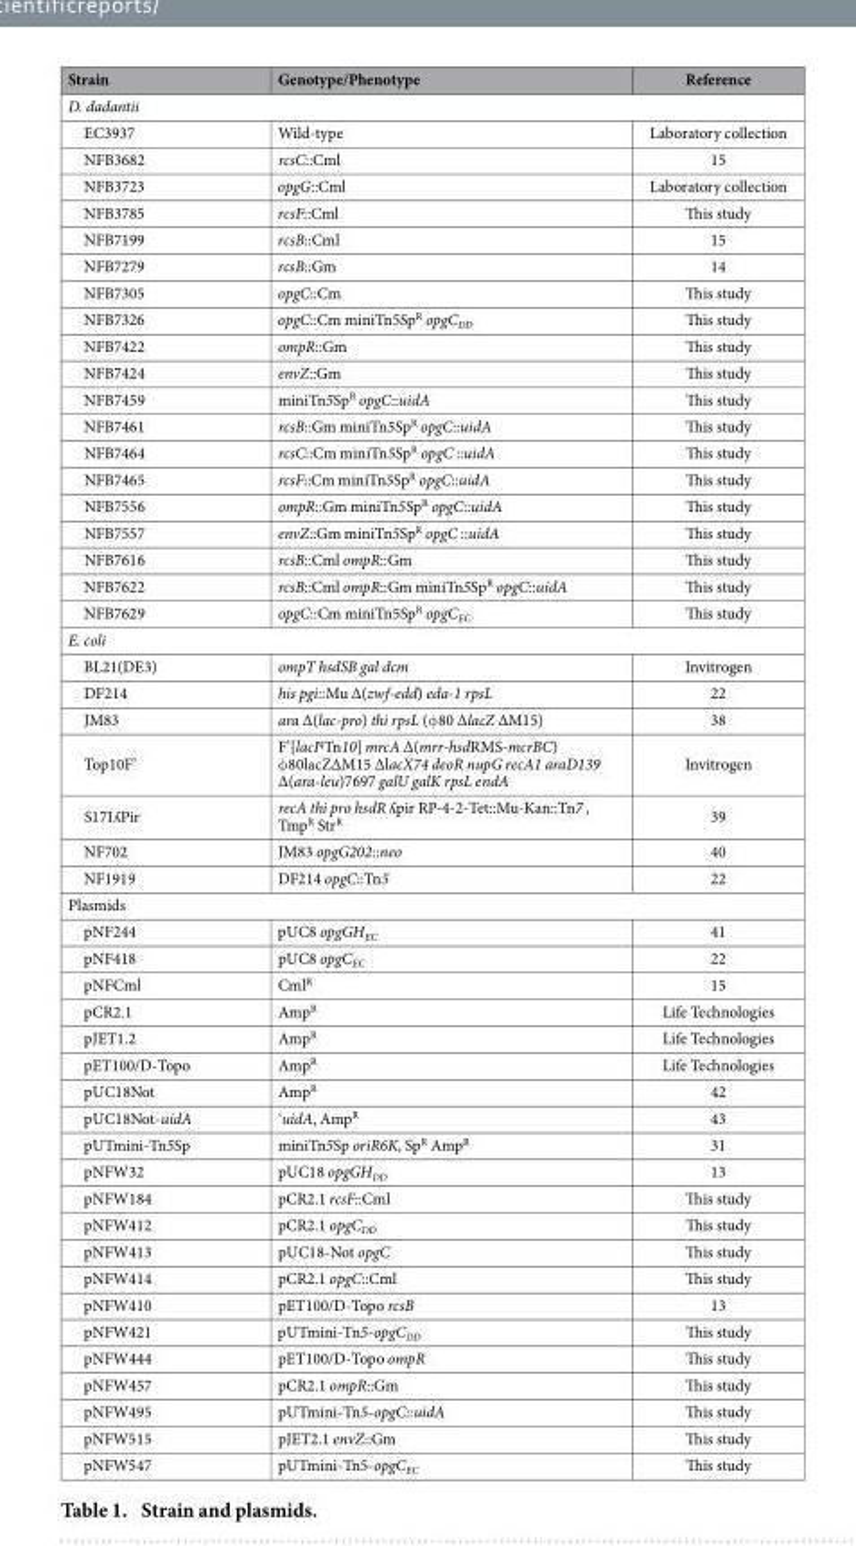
<table><thead><tr><td>Strain</td><td>Genotype/Phenotype</td><td>Reference</td></tr></thead><tbody><tr><td colspan="3">D. dadantii</td></tr><tr><td>EC3937</td><td>Wild-type</td><td>Laboratory collection</td></tr><tr><td>NFB3682</td><td>rcsC::Cml</td><td>15</td></tr><tr><td>NFB3723</td><td>opgG::Cml</td><td>Laboratory collection</td></tr><tr><td>NFB3785</td><td>rcsF::Cml</td><td>This study</td></tr><tr><td>NFB7199</td><td>rcsB::Cml</td><td>15</td></tr><tr><td>NFB7279</td><td>rcsB::Gm</td><td>14</td></tr><tr><td>NFB7305</td><td>opgC::Cm</td><td>This study</td></tr><tr><td>NFB7326</td><td>opgC::Cm miniTn5Sp<sup>R</sup> opgC<sub>DD</sub></td><td>This study</td></tr><tr><td>NFB7422</td><td>ompR::Gm</td><td>This study</td></tr><tr><td>NFB7424</td><td>envZ::Gm</td><td>This study</td></tr><tr><td>NFB7459</td><td>miniTn5Sp<sup>R</sup> opgC::uidA</td><td>This study</td></tr><tr><td>NFB7461</td><td>rcsB::Gm miniTn5Sp<sup>R</sup> opgC::uidA</td><td>This study</td></tr><tr><td>NFB7464</td><td>rcsC::Cm miniTn5Sp<sup>R</sup> opgC ::uidA</td><td>This study</td></tr><tr><td>NFB7465</td><td>rcsF::Cm miniTn5Sp<sup>R</sup> opgC::uidA</td><td>This study</td></tr><tr><td>NFB7556</td><td>ompR::Gm miniTn5Sp<sup>R</sup> opgC::uidA</td><td>This study</td></tr><tr><td>NFB7557</td><td>envZ::Gm miniTn5Sp<sup>R</sup> opgC ::uidA</td><td>This study</td></tr><tr><td>NFB7616</td><td>rcsB::Cml ompR::Gm</td><td>This study</td></tr><tr><td>NFB7622</td><td>rcsB::Cml ompR::Gm miniTn5Sp<sup>R</sup> opgC::uidA</td><td>This study</td></tr><tr><td>NFB7629</td><td>opgC::Cm miniTn5Sp<sup>R</sup> opgC<sub>EC</sub></td><td>This study</td></tr><tr><td colspan="3">E. coli</td></tr><tr><td>BL21(DE3)</td><td>ompT hsdSB gal dcm</td><td>Invitrogen</td></tr><tr><td>DF214</td><td>his pgi::Mu ∆(zwf-edd) eda-1 rpsL</td><td>22</td></tr><tr><td>JM83</td><td>ara ∆(lac-pro) thi rpsL (φ 80 ∆lacZ ∆M15)</td><td>38</td></tr><tr><td>Top10F’</td><td>F’[lacI<sup>q</sup>Tn10] mrcA ∆(mrr-hsdRMS-mcrBC) φ 80lacZ∆M15 ∆lacX74 deoR nupG recA1 araD139 ∆(ara-leu)7697 galU galK rpsL endA</td><td>Invitrogen</td></tr><tr><td>S17I ʎPir</td><td>recA thi pro hsdR ʎpir RP-4-2-Tet::Mu-Kan::Tn7 , Tmp<sup>R</sup> Str<sup>R</sup></td><td>39</td></tr><tr><td>NF702</td><td>JM83 opgG202::neo</td><td>40</td></tr><tr><td>NF1919</td><td>DF214 opgC::Tn5</td><td>22</td></tr><tr><td colspan="3">Plasmids</td></tr><tr><td>pNF244</td><td>pUC8 opgGH<sub>EC</sub></td><td>41</td></tr><tr><td>pNF418</td><td>pUC8 opgC<sub>EC</sub></td><td>22</td></tr><tr><td>pNFCml</td><td>Cml<sup>R</sup></td><td>15</td></tr><tr><td>pCR2.1</td><td>Amp<sup>R</sup></td><td>Life Technologies</td></tr><tr><td>pJET1.2</td><td>Amp<sup>R</sup></td><td>Life Technologies</td></tr><tr><td>pET100/D-Topo</td><td>Amp<sup>R</sup></td><td>Life Technologies</td></tr><tr><td>pUC18Not</td><td>Amp<sup>R</sup></td><td>42</td></tr><tr><td>pUC18Not-uidA</td><td>‘uidA, Amp<sup>R</sup></td><td>43</td></tr><tr><td>pUTmini-Tn5Sp</td><td>miniTn5Sp oriR6K, Sp<sup>R</sup> Amp<sup>R</sup></td><td>31</td></tr><tr><td>pNFW32</td><td>pUC18 opgGH<sub>DD</sub></td><td>13</td></tr><tr><td>pNFW184</td><td>pCR2.1 rcsF::Cml</td><td>This study</td></tr><tr><td>pNFW412</td><td>pCR2.1 opgC<sub>DD</sub></td><td>This study</td></tr><tr><td>pNFW413</td><td>pUC18-Not opgC</td><td>This study</td></tr><tr><td>pNFW414</td><td>pCR2.1 opgC::Cml</td><td>This study</td></tr><tr><td>pNFW410</td><td>pET100/D-Topo rcsB</td><td>13</td></tr><tr><td>pNFW421</td><td>pUTmini-Tn5-opgC<sub>DD</sub></td><td>This study</td></tr><tr><td>pNFW444</td><td>pET100/D-Topo ompR</td><td>This study</td></tr><tr><td>pNFW457</td><td>pCR2.1 ompR::Gm</td><td>This study</td></tr><tr><td>pNFW495</td><td>pUTmini-Tn5-opgC::uidA</td><td>This study</td></tr><tr><td>pNFW515</td><td>pJET2.1 envZ::Gm</td><td>This study</td></tr><tr><td>pNFW547</td><td>pUTmini-Tn5-opgC<sub>EC</sub></td><td>This study</td></tr></tbody></table>